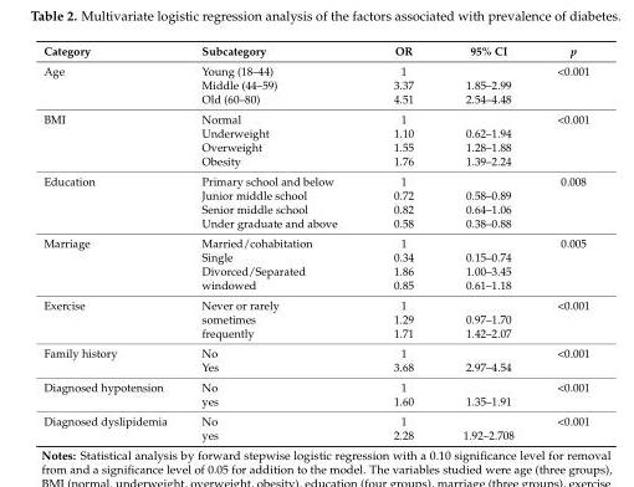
<table><thead><tr><td>Category</td><td>Subcategory</td><td>OR</td><td>95% CI</td><td>p</td></tr></thead><tbody><tr><td rowspan="3">Age</td><td>Young (18–44)</td><td>1</td><td></td><td>&lt;0.001</td></tr><tr><td>Middle (44–59)</td><td>3.37</td><td>1.85–2.99</td><td></td></tr><tr><td>Old (60–80)</td><td>4.51</td><td>2.54–4.48</td><td></td></tr><tr><td rowspan="4">BMI</td><td>Normal</td><td>1</td><td></td><td>&lt;0.001</td></tr><tr><td>Underweight</td><td>1.10</td><td>0.62–1.94</td><td></td></tr><tr><td>Overweight</td><td>1.55</td><td>1.28–1.88</td><td></td></tr><tr><td>Obesity</td><td>1.76</td><td>1.39–2.24</td><td></td></tr><tr><td rowspan="4">Education</td><td>Primary school and below</td><td>1</td><td></td><td>0.008</td></tr><tr><td>Junior middle school</td><td>0.72</td><td>0.58–0.89</td><td></td></tr><tr><td>Senior middle school</td><td>0.82</td><td>0.64–1.06</td><td></td></tr><tr><td>Under graduate and above</td><td>0.58</td><td>0.38–0.88</td><td></td></tr><tr><td rowspan="4">Marriage</td><td>Married/cohabitation</td><td>1</td><td></td><td>0.005</td></tr><tr><td>Single</td><td>0.34</td><td>0.15–0.74</td><td></td></tr><tr><td>Divorced/Separated</td><td>1.86</td><td>1.00–3.45</td><td></td></tr><tr><td>windowed</td><td>0.85</td><td>0.61–1.18</td><td></td></tr><tr><td rowspan="3">Exercise</td><td>Never or rarely</td><td>1</td><td></td><td>&lt;0.001</td></tr><tr><td>sometimes</td><td>1.29</td><td>0.97–1.70</td><td></td></tr><tr><td>frequently</td><td>1.71</td><td>1.42–2.07</td><td></td></tr><tr><td rowspan="2">Family history</td><td>No</td><td>1</td><td></td><td>&lt;0.001</td></tr><tr><td>Yes</td><td>3.68</td><td>2.97–4.54</td><td></td></tr><tr><td rowspan="2">Diagnosed hypotension</td><td>No</td><td>1</td><td></td><td>&lt;0.001</td></tr><tr><td>yes</td><td>1.60</td><td>1.35–1.91</td><td></td></tr><tr><td rowspan="2">Diagnosed dyslipidemia</td><td>No</td><td>1</td><td></td><td>&lt;0.001</td></tr><tr><td>yes</td><td>2.28</td><td>1.92–2.708</td><td></td></tr></tbody></table>